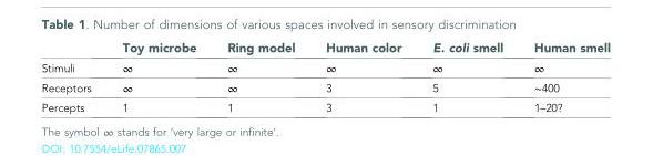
<table><thead><tr><td></td><td>Toy microbe</td><td>Ring model</td><td>Human color</td><td>E. coli smell</td><td>Human smell</td></tr></thead><tbody><tr><td>Stimuli</td><td>∞</td><td>∞</td><td>∞</td><td>∞</td><td>∞</td></tr><tr><td>Receptors</td><td>∞</td><td>∞</td><td>3</td><td>5</td><td>∼400</td></tr><tr><td>Percepts</td><td>1</td><td>1</td><td>3</td><td>1</td><td>1–20?</td></tr></tbody></table>